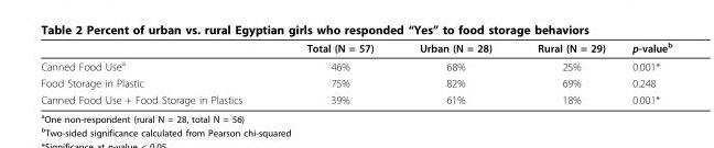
<table><thead><tr><td></td><td>Total (N = 57)</td><td>Urban (N = 28)</td><td>Rural (N = 29)</td><td>p-value<sup>b</sup></td></tr></thead><tbody><tr><td>Canned Food Use<sup>a</sup></td><td>46%</td><td>68%</td><td>25%</td><td>0.001*</td></tr><tr><td>Food Storage in Plastic</td><td>75%</td><td>82%</td><td>69%</td><td>0.248</td></tr><tr><td>Canned Food Use + Food Storage in Plastics</td><td>39%</td><td>61%</td><td>18%</td><td>0.001*</td></tr></tbody></table>